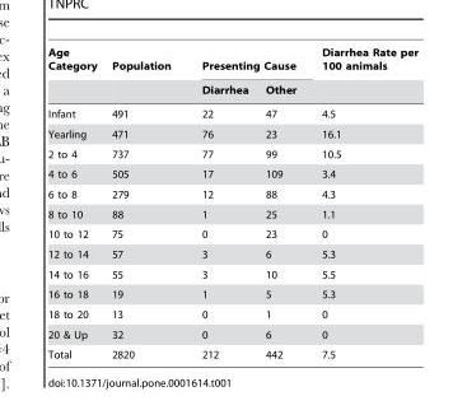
<table><thead><tr><td rowspan="2">Age Category</td><td rowspan="2">Population</td><td colspan="2">Presenting Cause</td><td rowspan="2">Diarrhea Rate per 100 animals</td></tr><tr><td>Diarrhea</td><td>Other</td></tr></thead><tbody><tr><td>Infant</td><td>491</td><td>22</td><td>47</td><td>4.5</td></tr><tr><td>Yearling</td><td>471</td><td>76</td><td>23</td><td>16.1</td></tr><tr><td>2 to 4</td><td>737</td><td>77</td><td>99</td><td>10.5</td></tr><tr><td>4 to 6</td><td>505</td><td>17</td><td>109</td><td>3.4</td></tr><tr><td>6 to 8</td><td>279</td><td>12</td><td>88</td><td>4.3</td></tr><tr><td>8 to 10</td><td>88</td><td>1</td><td>25</td><td>1.1</td></tr><tr><td>10 to 12</td><td>75</td><td>0</td><td>23</td><td>0</td></tr><tr><td>12 to 14</td><td>57</td><td>3</td><td>6</td><td>5.3</td></tr><tr><td>14 to 16</td><td>55</td><td>3</td><td>10</td><td>5.5</td></tr><tr><td>16 to 18</td><td>19</td><td>1</td><td>5</td><td>5.3</td></tr><tr><td>18 to 20</td><td>13</td><td>0</td><td>1</td><td>0</td></tr><tr><td>20 &amp; Up</td><td>32</td><td>0</td><td>6</td><td>0</td></tr><tr><td>Total</td><td>2820</td><td>212</td><td>442</td><td>7.5</td></tr></tbody></table>